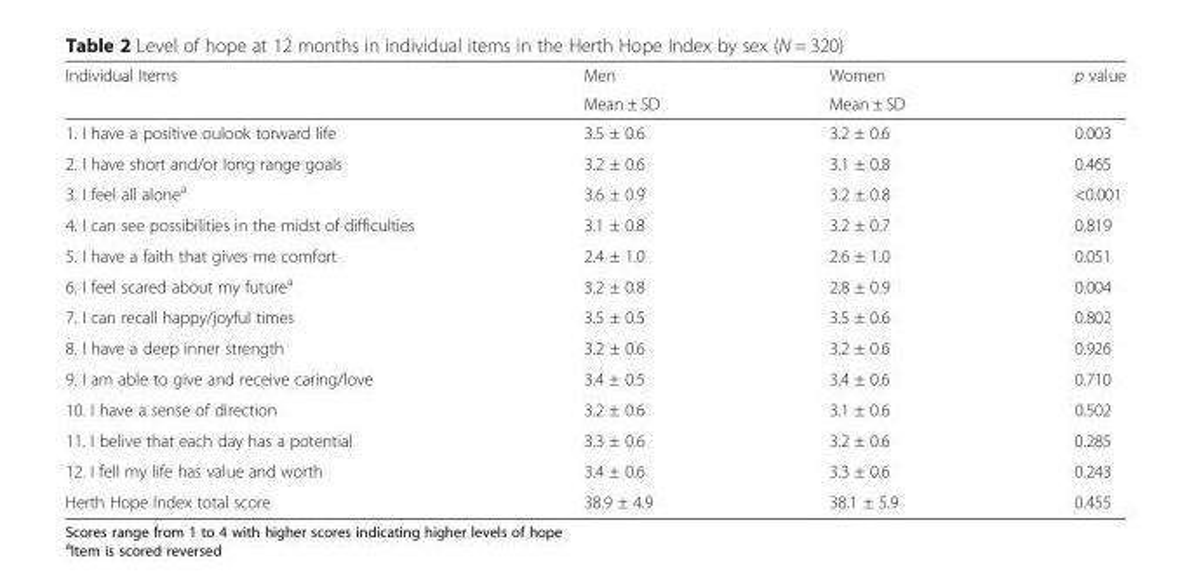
<table><thead><tr><td rowspan="2">Individual Items</td><td rowspan="2">Men Mean ± SD</td><td rowspan="2">Women Mean ± SD</td><td rowspan="2">p value</td></tr><tr></tr></thead><tbody><tr><td>1. I have a positive oulook torward life</td><td>3.5 ± 0.6</td><td>3.2 ± 0.6</td><td>0.003</td></tr><tr><td>2. I have short and/or long range goals</td><td>3.2 ± 0.6</td><td>3.1 ± 0.8</td><td>0.465</td></tr><tr><td>3. I feel all alone<sup>a</sup></td><td>3.6 ± 0.9</td><td>3.2 ± 0.8</td><td>&lt;0.001</td></tr><tr><td>4. I can see possibilities in the midst of difficulties</td><td>3.1 ± 0.8</td><td>3.2 ± 0.7</td><td>0.819</td></tr><tr><td>5. I have a faith that gives me comfort</td><td>2.4 ± 1.0</td><td>2.6 ± 1.0</td><td>0.051</td></tr><tr><td>6. I feel scared about my future<sup>a</sup></td><td>3.2 ± 0.8</td><td>2.8 ± 0.9</td><td>0.004</td></tr><tr><td>7. I can recall happy/joyful times</td><td>3.5 ± 0.5</td><td>3.5 ± 0.6</td><td>0.802</td></tr><tr><td>8. I have a deep inner strength</td><td>3.2 ± 0.6</td><td>3.2 ± 0.6</td><td>0.926</td></tr><tr><td>9. I am able to give and receive caring/love</td><td>3.4 ± 0.5</td><td>3.4 ± 0.6</td><td>0.710</td></tr><tr><td>10. I have a sense of direction</td><td>3.2 ± 0.6</td><td>3.1 ± 0.6</td><td>0.502</td></tr><tr><td>11. I belive that each day has a potential</td><td>3.3 ± 0.6</td><td>3.2 ± 0.6</td><td>0.285</td></tr><tr><td>12. I fell my life has value and worth</td><td>3.4 ± 0.6</td><td>3.3 ± 0.6</td><td>0.243</td></tr><tr><td>Herth Hope Index total score</td><td>38.9 ± 4.9</td><td>38.1 ± 5.9</td><td>0.455</td></tr></tbody></table>